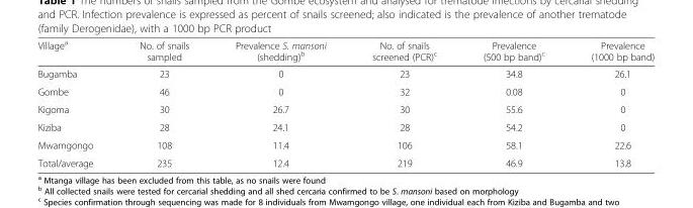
<table><thead><tr><td>Village<sup>a</sup></td><td>No. of snails sampled</td><td>Prevalence S. mansoni (shedding)<sup>b</sup></td><td>No. of snails screened (PCR)<sup>c</sup></td><td>Prevalence (500 bp band)<sup>c</sup></td><td>Prevalence (1000 bp band)</td></tr></thead><tbody><tr><td>Bugamba</td><td>23</td><td>0</td><td>23</td><td>34.8</td><td>26.1</td></tr><tr><td>Gombe</td><td>46</td><td>0</td><td>32</td><td>0.08</td><td>0</td></tr><tr><td>Kigoma</td><td>30</td><td>26.7</td><td>30</td><td>55.6</td><td>0</td></tr><tr><td>Kiziba</td><td>28</td><td>24.1</td><td>28</td><td>54.2</td><td>0</td></tr><tr><td>Mwamgongo</td><td>108</td><td>11.4</td><td>106</td><td>58.1</td><td>22.6</td></tr><tr><td>Total/average</td><td>235</td><td>12.4</td><td>219</td><td>46.9</td><td>13.8</td></tr></tbody></table>